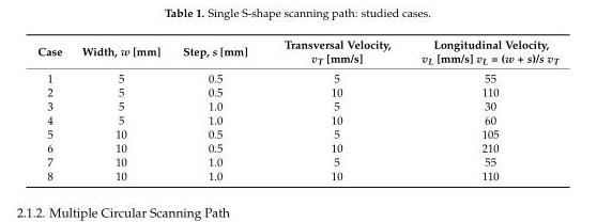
<table><thead><tr><td>Case</td><td>Width, w [mm]</td><td>Step, s [mm]</td><td>Transversal Velocity, v<sub>T</sub> [mm/s]</td><td>Longitudinal Velocity, v<sub>L</sub> [mm/s] v<sub>L</sub> = (w + s)/s v<sub>T</sub></td></tr></thead><tbody><tr><td>1</td><td>5</td><td>0.5</td><td>5</td><td>55</td></tr><tr><td>2</td><td>5</td><td>0.5</td><td>10</td><td>110</td></tr><tr><td>3</td><td>5</td><td>1.0</td><td>5</td><td>30</td></tr><tr><td>4</td><td>5</td><td>1.0</td><td>10</td><td>60</td></tr><tr><td>5</td><td>10</td><td>0.5</td><td>5</td><td>105</td></tr><tr><td>6</td><td>10</td><td>0.5</td><td>10</td><td>210</td></tr><tr><td>7</td><td>10</td><td>1.0</td><td>5</td><td>55</td></tr><tr><td>8</td><td>10</td><td>1.0</td><td>10</td><td>110</td></tr></tbody></table>